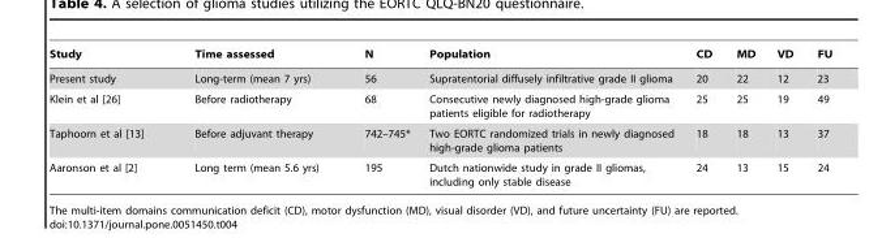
<table><thead><tr><td>Study</td><td>Time assessed</td><td>N</td><td>Population</td><td>CD</td><td>MD</td><td>VD</td><td>FU</td></tr></thead><tbody><tr><td>Present study</td><td>Long-term (mean 7 yrs)</td><td>56</td><td>Supratentorial diffusely infiltrative grade II glioma</td><td>20</td><td>22</td><td>12</td><td>23</td></tr><tr><td>Klein et al [26]</td><td>Before radiotherapy</td><td>68</td><td>Consecutive newly diagnosed high-grade glioma patients eligible for radiotherapy</td><td>25</td><td>25</td><td>19</td><td>49</td></tr><tr><td>Taphoorn et al [13]</td><td>Before adjuvant therapy</td><td>742–745*</td><td>Two EORTC randomized trials in newly diagnosed high-grade glioma patients</td><td>18</td><td>18</td><td>13</td><td>37</td></tr><tr><td>Aaronson et al [2]</td><td>Long term (mean 5.6 yrs)</td><td>195</td><td>Dutch nationwide study in grade II gliomas, including only stable disease</td><td>24</td><td>13</td><td>15</td><td>24</td></tr></tbody></table>